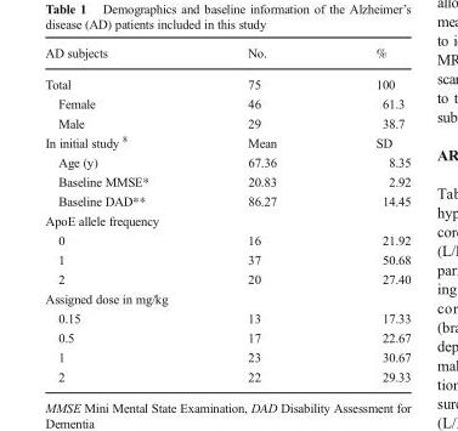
<table><thead><tr><td>AD subjects</td><td>No.</td><td>%</td></tr></thead><tbody><tr><td>Total</td><td>75</td><td>100</td></tr><tr><td>Female</td><td>46</td><td>61.3</td></tr><tr><td>Male</td><td>29</td><td>38.7</td></tr><tr><td>In initial study <sup>8</sup></td><td>Mean</td><td>SD</td></tr><tr><td>Age (y)</td><td>67.36</td><td>8.35</td></tr><tr><td>Baseline MMSE*</td><td>20.83</td><td>2.92</td></tr><tr><td>Baseline DAD**</td><td>86.27</td><td>14.45</td></tr><tr><td colspan="3">ApoE allele frequency</td></tr><tr><td>0</td><td>16</td><td>21.92</td></tr><tr><td>1</td><td>37</td><td>50.68</td></tr><tr><td>2</td><td>20</td><td>27.40</td></tr><tr><td colspan="3">Assigned dose in mg/kg</td></tr><tr><td>0.15</td><td>13</td><td>17.33</td></tr><tr><td>0.5</td><td>17</td><td>22.67</td></tr><tr><td>1</td><td>23</td><td>30.67</td></tr><tr><td>2</td><td>22</td><td>29.33</td></tr></tbody></table>